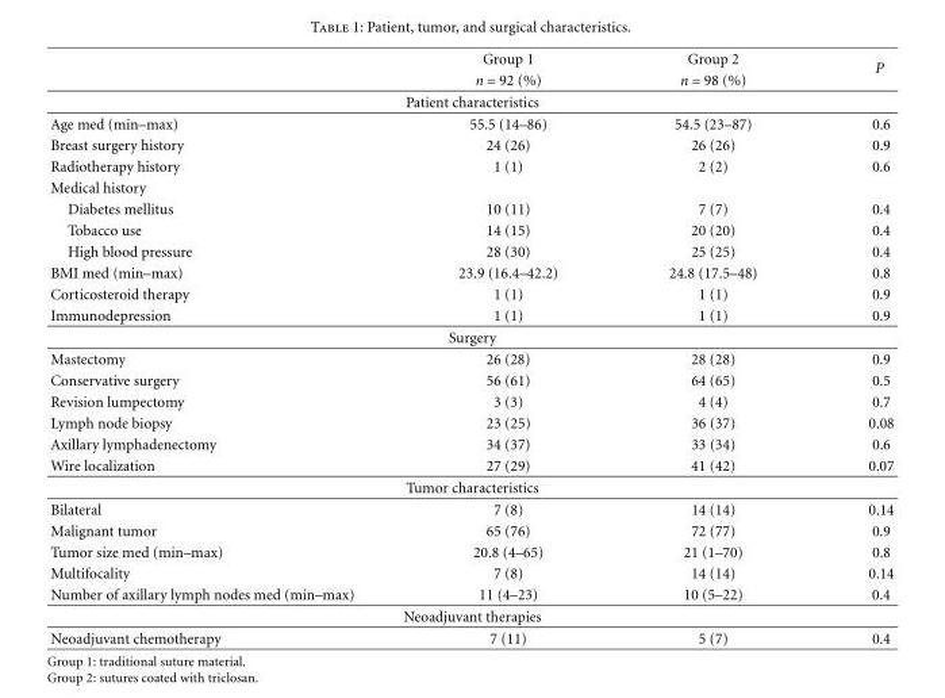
<table><thead><tr><td rowspan="2"></td><td rowspan="2">Group 1 n = 92 (%)</td><td rowspan="2">Group 2 n = 98 (%)</td><td rowspan="2">P</td></tr><tr></tr></thead><tbody><tr><td colspan="4">Patient characteristics</td></tr><tr><td>Age med (min–max)</td><td>55.5 (14–86)</td><td>54.5 (23–87)</td><td>0.6</td></tr><tr><td>Breast surgery history</td><td>24 (26)</td><td>26 (26)</td><td>0.9</td></tr><tr><td>Radiotherapy history</td><td>1 (1)</td><td>2 (2)</td><td>0.6</td></tr><tr><td colspan="4">Medical history</td></tr><tr><td>Diabetes mellitus</td><td>10 (11)</td><td>7 (7)</td><td>0.4</td></tr><tr><td>Tobacco use</td><td>14 (15)</td><td>20 (20)</td><td>0.4</td></tr><tr><td>High blood pressure</td><td>28 (30)</td><td>25 (25)</td><td>0.4</td></tr><tr><td>BMI med (min–max)</td><td>23.9 (16.4–42.2)</td><td>24.8 (17.5–48)</td><td>0.8</td></tr><tr><td>Corticosteroid therapy</td><td>1 (1)</td><td>1 (1)</td><td>0.9</td></tr><tr><td>Immunodepression</td><td>1 (1)</td><td>1 (1)</td><td>0.9</td></tr><tr><td colspan="4">Surgery</td></tr><tr><td>Mastectomy</td><td>26 (28)</td><td>28 (28)</td><td>0.9</td></tr><tr><td>Conservative surgery</td><td>56 (61)</td><td>64 (65)</td><td>0.5</td></tr><tr><td>Revision lumpectomy</td><td>3 (3)</td><td>4 (4)</td><td>0.7</td></tr><tr><td>Lymph node biopsy</td><td>23 (25)</td><td>36 (37)</td><td>0.08</td></tr><tr><td>Axillary lymphadenectomy</td><td>34 (37)</td><td>33 (34)</td><td>0.6</td></tr><tr><td>Wire localization</td><td>27 (29)</td><td>41 (42)</td><td>0.07</td></tr><tr><td colspan="4">Tumor characteristics</td></tr><tr><td>Bilateral</td><td>7 (8)</td><td>14 (14)</td><td>0.14</td></tr><tr><td>Malignant tumor</td><td>65 (76)</td><td>72 (77)</td><td>0.9</td></tr><tr><td>Tumor size med (min–max)</td><td>20.8 (4–65)</td><td>21 (1–70)</td><td>0.8</td></tr><tr><td>Multifocality</td><td>7 (8)</td><td>14 (14)</td><td>0.14</td></tr><tr><td>Number of axillary lymph nodes med (min–max)</td><td>11 (4–23)</td><td>10 (5–22)</td><td>0.4</td></tr><tr><td colspan="4">Neoadjuvant therapies</td></tr><tr><td>Neoadjuvant chemotherapy</td><td>7 (11)</td><td>5 (7)</td><td>0.4</td></tr></tbody></table>